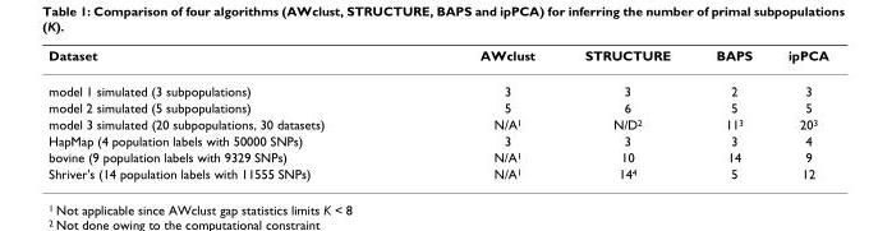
<table><thead><tr><td>Dataset</td><td>AWclust</td><td>STRUCTURE</td><td>BAPS</td><td>ipPCA</td></tr></thead><tbody><tr><td>model 1 simulated (3 subpopulations)</td><td>3</td><td>3</td><td>2</td><td>3</td></tr><tr><td>model 2 simulated (5 subpopulations)</td><td>5</td><td>6</td><td>5</td><td>5</td></tr><tr><td>model 3 simulated (20 subpopulations, 30 datasets)</td><td>N/A<sup>1</sup></td><td>N/D<sup>2</sup></td><td>11<sup>3</sup></td><td>20<sup>3</sup></td></tr><tr><td>HapMap (4 population labels with 50000 SNPs)</td><td>3</td><td>3</td><td>3</td><td>4</td></tr><tr><td>bovine (9 population labels with 9329 SNPs)</td><td>N/A<sup>1</sup></td><td>10</td><td>14</td><td>9</td></tr><tr><td>Shriver&#x27;s (14 population labels with 11555 SNPs)</td><td>N/A<sup>1</sup></td><td>14<sup>4</sup></td><td>5</td><td>12</td></tr></tbody></table>